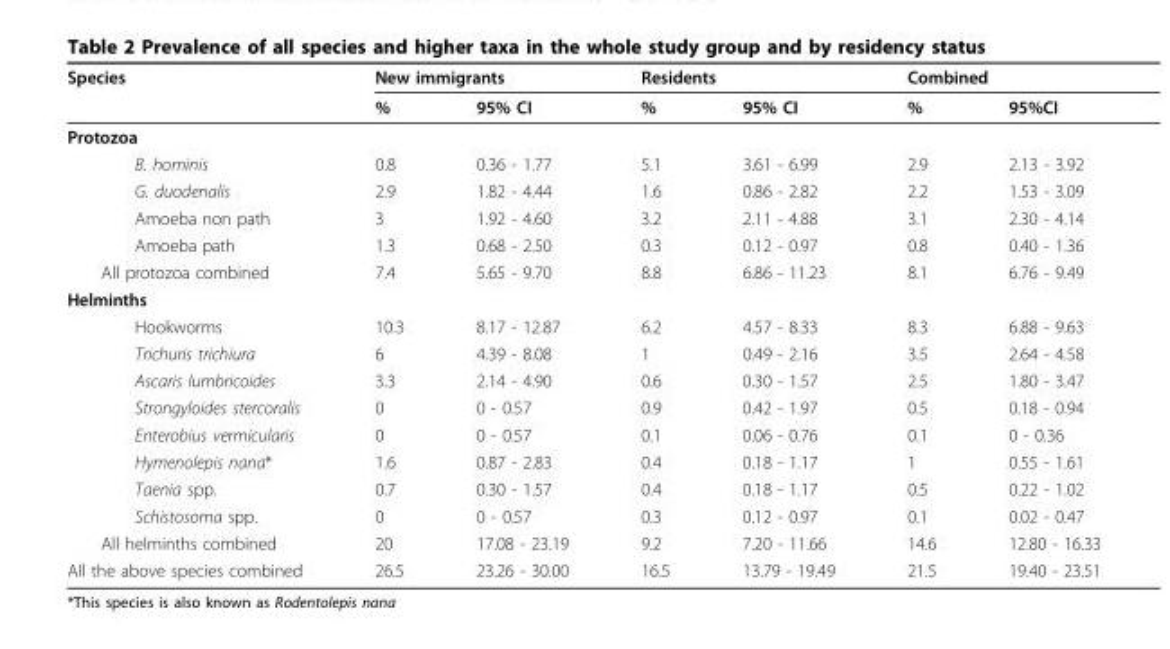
<table><thead><tr><td rowspan="2">Species</td><td colspan="2">New immigrants</td><td colspan="2">Residents</td><td colspan="2">Combined</td></tr><tr><td>%</td><td>95% CI</td><td>%</td><td>95% CI</td><td>%</td><td>95%CI</td></tr></thead><tbody><tr><td colspan="7">Protozoa</td></tr><tr><td>B. hominis</td><td>0.8</td><td>0.36 - 1.77</td><td>5.1</td><td>3.61 - 6.99</td><td>2.9</td><td>2.13 - 3.92</td></tr><tr><td>G. duodenalis</td><td>2.9</td><td>1.82 - 4.44</td><td>1.6</td><td>0.86 - 2.82</td><td>2.2</td><td>1.53 - 3.09</td></tr><tr><td>Amoeba non path</td><td>3</td><td>1.92 - 4.60</td><td>3.2</td><td>2.11 - 4.88</td><td>3.1</td><td>2.30 - 4.14</td></tr><tr><td>Amoeba path</td><td>1.3</td><td>0.68 - 2.50</td><td>0.3</td><td>0.12 - 0.97</td><td>0.8</td><td>0.40 - 1.36</td></tr><tr><td>All protozoa combined</td><td>7.4</td><td>5.65 - 9.70</td><td>8.8</td><td>6.86 - 11.23</td><td>8.1</td><td>6.76 - 9.49</td></tr><tr><td colspan="7">Helminths</td></tr><tr><td>Hookworms</td><td>10.3</td><td>8.17 - 12.87</td><td>6.2</td><td>4.57 - 8.33</td><td>8.3</td><td>6.88 - 9.63</td></tr><tr><td>Trichuris trichiura</td><td>6</td><td>4.39 - 8.08</td><td>1</td><td>0.49 - 2.16</td><td>3.5</td><td>2.64 - 4.58</td></tr><tr><td>Ascaris lumbricoides</td><td>3.3</td><td>2.14 - 4.90</td><td>0.6</td><td>0.30 - 1.57</td><td>2.5</td><td>1.80 - 3.47</td></tr><tr><td>Strongyloides stercoralis</td><td>0</td><td>0 - 0.57</td><td>0.9</td><td>0.42 - 1.97</td><td>0.5</td><td>0.18 - 0.94</td></tr><tr><td>Enterobius vermicularis</td><td>0</td><td>0 - 0.57</td><td>0.1</td><td>0.06 - 0.76</td><td>0.1</td><td>0 - 0.36</td></tr><tr><td>Hymenolepis nana*</td><td>1.6</td><td>0.87 - 2.83</td><td>0.4</td><td>0.18 - 1.17</td><td>1</td><td>0.55 - 1.61</td></tr><tr><td>Taenia spp.</td><td>0.7</td><td>0.30 - 1.57</td><td>0.4</td><td>0.18 - 1.17</td><td>0.5</td><td>0.22 - 1.02</td></tr><tr><td>Schistosoma spp.</td><td>0</td><td>0 - 0.57</td><td>0.3</td><td>0.12 - 0.97</td><td>0.1</td><td>0.02 - 0.47</td></tr><tr><td>All helminths combined</td><td>20</td><td>17.08 - 23.19</td><td>9.2</td><td>7.20 - 11.66</td><td>14.6</td><td>12.80 - 16.33</td></tr><tr><td>All the above species combined</td><td>26.5</td><td>23.26 - 30.00</td><td>16.5</td><td>13.79 - 19.49</td><td>21.5</td><td>19.40 - 23.51</td></tr></tbody></table>